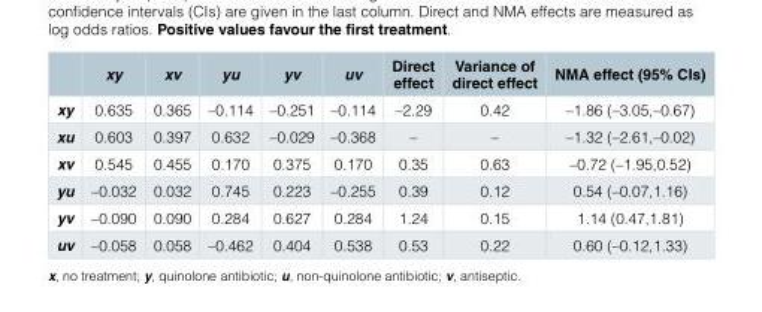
<table><thead><tr><td></td><td>xy</td><td>xv</td><td>yu</td><td>yv</td><td>uv</td><td>Direct effect</td><td>Variance of direct effect</td><td>NMA effect (95% CIs)</td></tr></thead><tbody><tr><td>xy</td><td>0.635</td><td>0.365</td><td>–0.114</td><td>–0.251</td><td>–0.114</td><td>–2.29</td><td>0.42</td><td>–1.86 (–3.05,–0.67)</td></tr><tr><td>xu</td><td>0.603</td><td>0.397</td><td>0.632</td><td>–0.029</td><td>–0.368</td><td>–</td><td>–</td><td>–1.32 (–2.61,–0.02)</td></tr><tr><td>xv</td><td>0.545</td><td>0.455</td><td>0.170</td><td>0.375</td><td>0.170</td><td>0.35</td><td>0.63</td><td>–0.72 (–1.95,0.52)</td></tr><tr><td>yu</td><td>–0.032</td><td>0.032</td><td>0.745</td><td>0.223</td><td>–0.255</td><td>0.39</td><td>0.12</td><td>0.54 (–0.07,1.16)</td></tr><tr><td>yv</td><td>–0.090</td><td>0.090</td><td>0.284</td><td>0.627</td><td>0.284</td><td>1.24</td><td>0.15</td><td>1.14 (0.47,1.81)</td></tr><tr><td>uv</td><td>–0.058</td><td>0.058</td><td>–0.462</td><td>0.404</td><td>0.538</td><td>0.53</td><td>0.22</td><td>0.60 (–0.12,1.33)</td></tr></tbody></table>